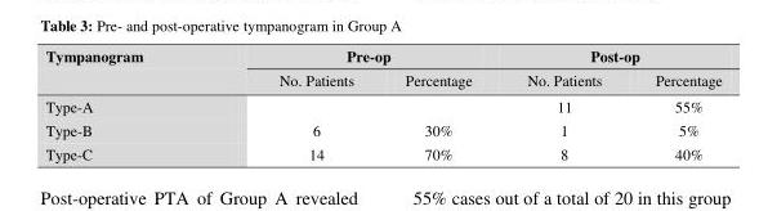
<table><thead><tr><td rowspan="2">Tympanogram</td><td colspan="2">Pre-op</td><td colspan="2">Post-op</td></tr><tr><td>No. Patients</td><td>Percentage</td><td>No. Patients</td><td>Percentage</td></tr></thead><tbody><tr><td>Type-A</td><td></td><td></td><td>11</td><td>55%</td></tr><tr><td>Type-B</td><td>6</td><td>30%</td><td>1</td><td>5%</td></tr><tr><td>Type-C</td><td>14</td><td>70%</td><td>8</td><td>40%</td></tr></tbody></table>